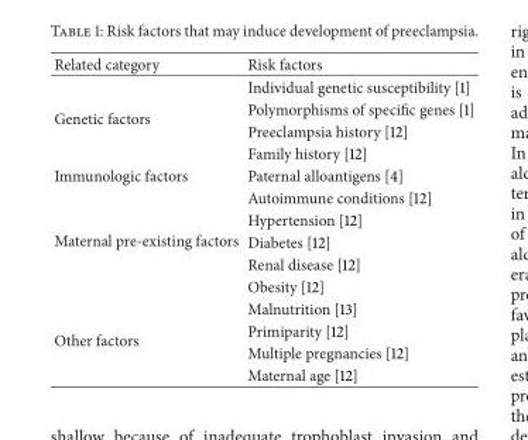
<table><thead><tr><td>Related category</td><td>Risk factors</td></tr></thead><tbody><tr><td rowspan="4">Genetic factors</td><td>Individual genetic susceptibility [1]</td></tr><tr><td>Polymorphisms of specific genes [1]</td></tr><tr><td>Preeclampsia history [12]</td></tr><tr><td>Family history [12]</td></tr><tr><td>Immunologic factors</td><td>Paternal alloantigens [4]</td></tr><tr><td rowspan="5">Maternal pre-existing factors</td><td>Autoimmune conditions [12]</td></tr><tr><td>Hypertension [12]</td></tr><tr><td>Diabetes [12]</td></tr><tr><td>Renal disease [12]</td></tr><tr><td>Obesity [12]</td></tr><tr><td rowspan="4">Other factors</td><td>Malnutrition [13]</td></tr><tr><td>Primiparity [12]</td></tr><tr><td>Multiple pregnancies [12]</td></tr><tr><td>Maternal age [12]</td></tr></tbody></table>